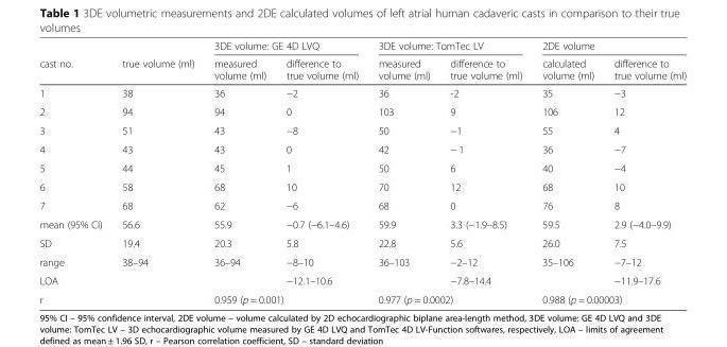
<table><thead><tr><td rowspan="2">cast no.</td><td rowspan="2">true volume (ml)</td><td colspan="2">3DE volume: GE 4D LVQ</td><td colspan="2">3DE volume: TomTec LV</td><td colspan="2">2DE volume</td></tr><tr><td>measured volume (ml)</td><td>difference to true volume (ml)</td><td>measured volume (ml)</td><td>difference to true volume (ml)</td><td>calculated volume (ml)</td><td>difference to true volume (ml)</td></tr></thead><tbody><tr><td>1</td><td>38</td><td>36</td><td>−2</td><td>36</td><td>-2</td><td>35</td><td>−3</td></tr><tr><td>2</td><td>94</td><td>94</td><td>0</td><td>103</td><td>9</td><td>106</td><td>12</td></tr><tr><td>3</td><td>51</td><td>43</td><td>−8</td><td>50</td><td>−1</td><td>55</td><td>4</td></tr><tr><td>4</td><td>43</td><td>43</td><td>0</td><td>42</td><td>− 1</td><td>36</td><td>−7</td></tr><tr><td>5</td><td>44</td><td>45</td><td>1</td><td>50</td><td>6</td><td>40</td><td>−4</td></tr><tr><td>6</td><td>58</td><td>68</td><td>10</td><td>70</td><td>12</td><td>68</td><td>10</td></tr><tr><td>7</td><td>68</td><td>62</td><td>−6</td><td>68</td><td>0</td><td>76</td><td>8</td></tr><tr><td>mean (95% CI)</td><td>56.6</td><td>55.9</td><td>−0.7 (−6.1–4.6)</td><td>59.9</td><td>3.3 (−1.9–8.5)</td><td>59.5</td><td>2.9 (−4.0–9.9)</td></tr><tr><td>SD</td><td>19.4</td><td>20.3</td><td>5.8</td><td>22.8</td><td>5.6</td><td>26.0</td><td>7.5</td></tr><tr><td>range</td><td>38–94</td><td>36–94</td><td>−8–10</td><td>36–103</td><td>−2–12</td><td>35–106</td><td>−7–12</td></tr><tr><td>LOA</td><td></td><td></td><td>−12.1–10.6</td><td></td><td>−7.8–14.4</td><td></td><td>−11.9–17.6</td></tr><tr><td>r</td><td></td><td colspan="2">0.959 (p = 0.001)</td><td colspan="2">0.977 (p = 0.0002)</td><td colspan="2">0.988 (p = 0.00003)</td></tr></tbody></table>